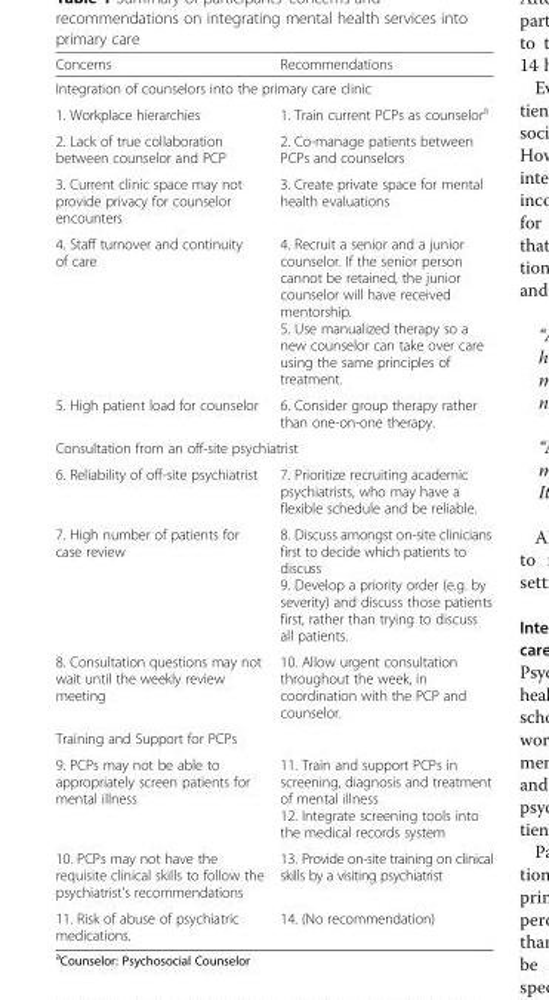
<table><thead><tr><td>Concerns</td><td>Recommendations</td></tr></thead><tbody><tr><td colspan="2">Integration of counselors into the primary care clinic</td></tr><tr><td>1. Workplace hierarchies</td><td>1. Train current PCPs as counselor<sup>a</sup></td></tr><tr><td>2. Lack of true collaboration between counselor and PCP</td><td>2. Co-manage patients between PCPs and counselors</td></tr><tr><td>3. Current clinic space may not provide privacy for counselor encounters</td><td>3. Create private space for mental health evaluations</td></tr><tr><td>4. Staff turnover and continuity of care</td><td>4. Recruit a senior and a junior counselor. If the senior person cannot be retained, the junior counselor will have received mentorship. 5. Use manualized therapy so a new counselor can take over care using the same principles of treatment.</td></tr><tr><td>5. High patient load for counselor</td><td>6. Consider group therapy rather than one-on-one therapy.</td></tr><tr><td colspan="2">Consultation from an off-site psychiatrist</td></tr><tr><td>6. Reliability of off-site psychiatrist</td><td>7. Prioritize recruiting academic psychiatrists, who may have a flexible schedule and be reliable.</td></tr><tr><td>7. High number of patients for case review</td><td>8. Discuss amongst on-site clinicians first to decide which patients to discuss 9. Develop a priority order (e.g. by severity) and discuss those patients first, rather than trying to discuss all patients.</td></tr><tr><td>8. Consultation questions may not wait until the weekly review meeting</td><td>10. Allow urgent consultation throughout the week, in coordination with the PCP and counselor.</td></tr><tr><td colspan="2">Training and Support for PCPs</td></tr><tr><td>9. PCPs may not be able to appropriately screen patients for mental illness</td><td>11. Train and support PCPs in screening, diagnosis and treatment of mental illness 12. Integrate screening tools into the medical records system</td></tr><tr><td>10. PCPs may not have the requisite clinical skills to follow the psychiatrist’s recommendations</td><td>13. Provide on-site training on clinical skills by a visiting psychiatrist</td></tr><tr><td>11. Risk of abuse of psychiatric medications.</td><td>14. (No recommendation)</td></tr></tbody></table>